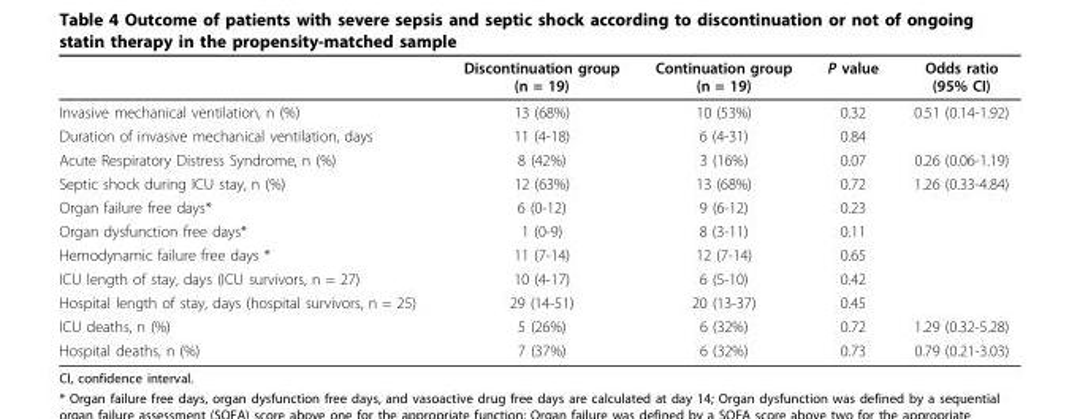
<table><thead><tr><td></td><td>Discontinuation group (n = 19)</td><td>Continuation group (n = 19)</td><td>P value</td><td>Odds ratio (95% CI)</td></tr></thead><tbody><tr><td>Invasive mechanical ventilation, n (%)</td><td>13 (68%)</td><td>10 (53%)</td><td>0.32</td><td>0.51 (0.14-1.92)</td></tr><tr><td>Duration of invasive mechanical ventilation, days</td><td>11 (4-18)</td><td>6 (4-31)</td><td>0.84</td><td></td></tr><tr><td>Acute Respiratory Distress Syndrome, n (%)</td><td>8 (42%)</td><td>3 (16%)</td><td>0.07</td><td>0.26 (0.06-1.19)</td></tr><tr><td>Septic shock during ICU stay, n (%)</td><td>12 (63%)</td><td>13 (68%)</td><td>0.72</td><td>1.26 (0.33-4.84)</td></tr><tr><td>Organ failure free days*</td><td>6 (0-12)</td><td>9 (6-12)</td><td>0.23</td><td></td></tr><tr><td>Organ dysfunction free days*</td><td>1 (0-9)</td><td>8 (3-11)</td><td>0.11</td><td></td></tr><tr><td>Hemodynamic failure free days *</td><td>11 (7-14)</td><td>12 (7-14)</td><td>0.65</td><td></td></tr><tr><td>ICU length of stay, days (ICU survivors, n = 27)</td><td>10 (4-17)</td><td>6 (5-10)</td><td>0.42</td><td></td></tr><tr><td>Hospital length of stay, days (hospital survivors, n = 25)</td><td>29 (14-51)</td><td>20 (13-37)</td><td>0.45</td><td></td></tr><tr><td>ICU deaths, n (%)</td><td>5 (26%)</td><td>6 (32%)</td><td>0.72</td><td>1.29 (0.32-5.28)</td></tr><tr><td>Hospital deaths, n (%)</td><td>7 (37%)</td><td>6 (32%)</td><td>0.73</td><td>0.79 (0.21-3.03)</td></tr></tbody></table>